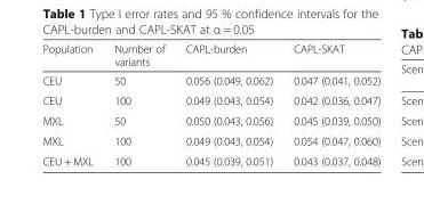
<table><thead><tr><td>Population</td><td>Number of variants</td><td>CAPL-burden</td><td>CAPL-SKAT</td></tr></thead><tbody><tr><td>CEU</td><td>50</td><td>0.056 (0.049, 0.062)</td><td>0.047 (0.041, 0.052)</td></tr><tr><td>CEU</td><td>100</td><td>0.049 (0.043, 0.054)</td><td>0.042 (0.036, 0.047)</td></tr><tr><td>MXL</td><td>50</td><td>0.050 (0.043, 0.056)</td><td>0.045 (0.039, 0.050)</td></tr><tr><td>MXL</td><td>100</td><td>0.049 (0.043, 0.054)</td><td>0.054 (0.047, 0.060)</td></tr><tr><td>CEU + MXL</td><td>100</td><td>0.045 (0.039, 0.051)</td><td>0.043 (0.037, 0.048)</td></tr></tbody></table>